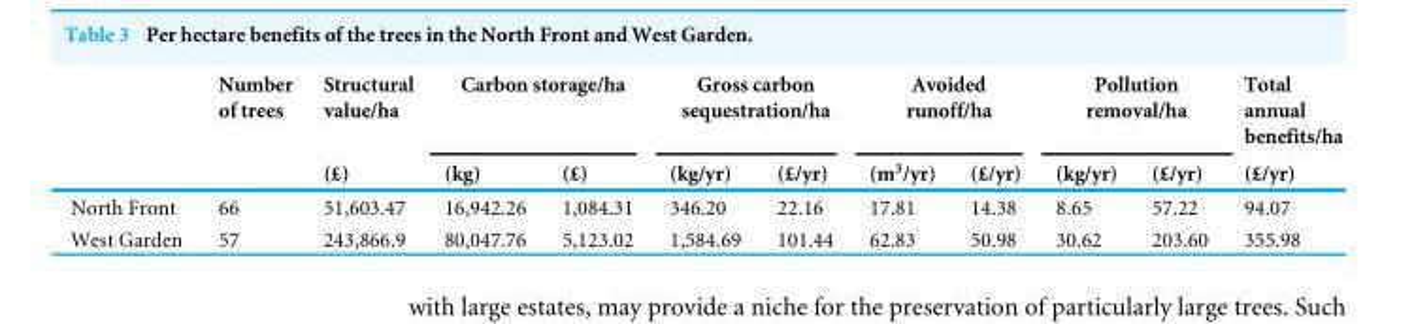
<table><thead><tr><td rowspan="2"></td><td rowspan="2">Number of trees</td><td rowspan="2">Structural value/ha (£)</td><td colspan="2">Carbon storage/ha</td><td colspan="2">Gross carbon sequestration/ha</td><td colspan="2">Avoided runoff/ha</td><td colspan="2">Pollution removal/ha</td><td rowspan="2">Total annual benefits/ha (£/yr)</td></tr><tr><td>(kg)</td><td>(£)</td><td>(kg/yr)</td><td>(£/yr)</td><td>(m<sup>3</sup>/yr)</td><td>(£/yr)</td><td>(kg/yr)</td><td>(£/yr)</td></tr></thead><tbody><tr><td>North Front</td><td>66</td><td>51,603.47</td><td>16,942.26</td><td>1,084.31</td><td>346.20</td><td>22.16</td><td>17.81</td><td>14.38</td><td>8.65</td><td>57.22</td><td>94.07</td></tr><tr><td>West Garden</td><td>57</td><td>243,866.9</td><td>80,047.76</td><td>5,123.02</td><td>1,584.69</td><td>101.44</td><td>62.83</td><td>50.98</td><td>30.62</td><td>203.60</td><td>355.98</td></tr></tbody></table>